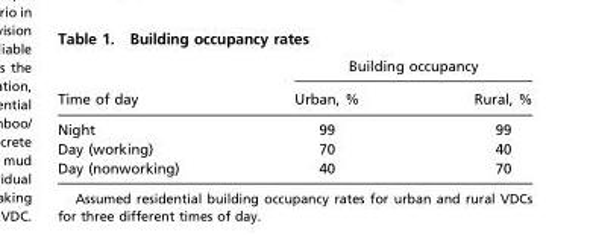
<table><thead><tr><td rowspan="2">Time of day</td><td colspan="2">Building occupancy</td></tr><tr><td>Urban, %</td><td>Rural, %</td></tr></thead><tbody><tr><td>Night</td><td>99</td><td>99</td></tr><tr><td>Day (working)</td><td>70</td><td>40</td></tr><tr><td>Day (nonworking)</td><td>40</td><td>70</td></tr></tbody></table>